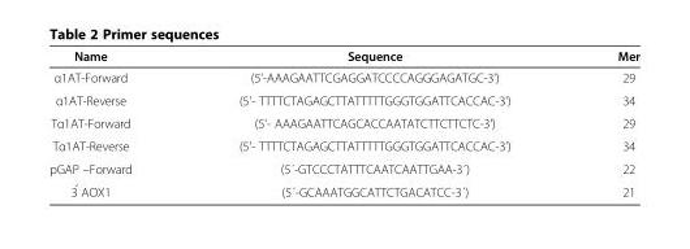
<table><thead><tr><td>Name</td><td>Sequence</td><td>Mer</td></tr></thead><tbody><tr><td>α1AT-Forward</td><td>(5&#x27;-AAAGAATTCGAGGATCCCCAGGGAGATGC-3&#x27;)</td><td>29</td></tr><tr><td>α1AT-Reverse</td><td>(5&#x27;- TTTTCTAGAGCTTATTTTTGGGTGGATTCACCAC-3&#x27;)</td><td>34</td></tr><tr><td>Tα1AT-Forward</td><td>(5&#x27;- AAAGAATTCAGCACCAATATCTTCTTCTC-3’)</td><td>29</td></tr><tr><td>Tα1AT-Reverse</td><td>(5&#x27;- TTTTCTAGAGCTTATTTTTGGGTGGATTCACCAC-3&#x27;)</td><td>34</td></tr><tr><td>pGAP –Forward</td><td>(5´-GTCCCTATTTCAATCAATTGAA-3´)</td><td>22</td></tr><tr><td>3́ AOX1</td><td>(5´-GCAAATGGCATTCTGACATCC-3´)</td><td>21</td></tr></tbody></table>